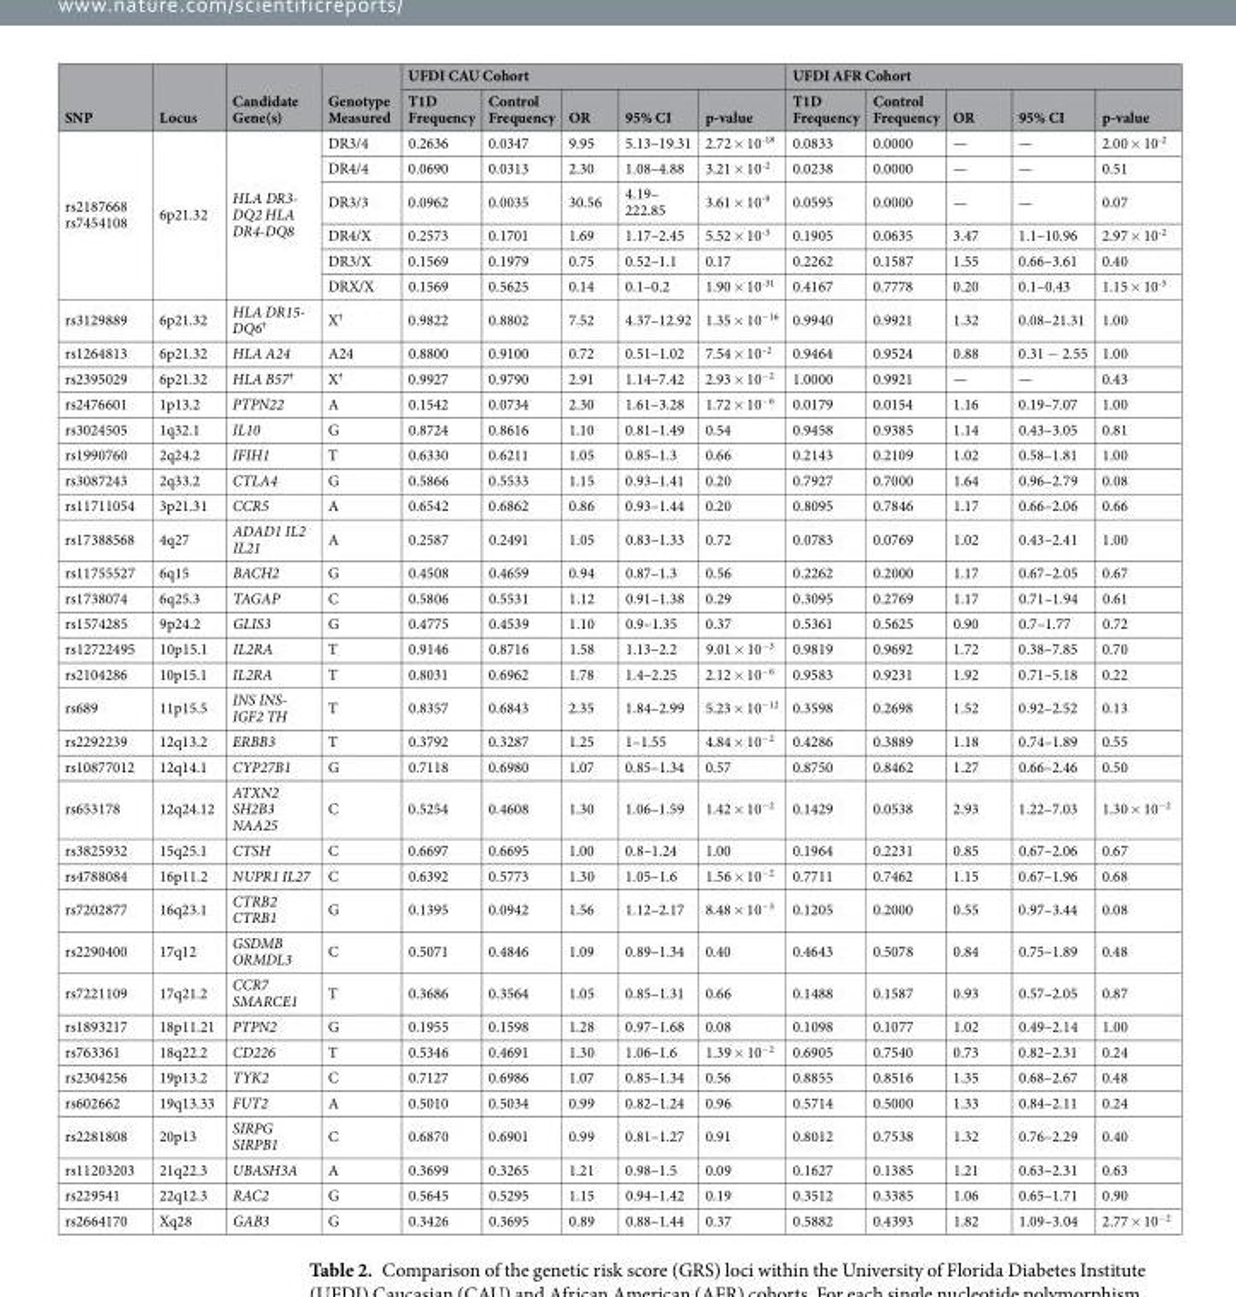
<table><thead><tr><td rowspan="2">SNP</td><td rowspan="2">Locus</td><td rowspan="2">Candidate Gene(s)</td><td rowspan="2">Genotype Measured</td><td colspan="5">UFDI CAU Cohort</td><td colspan="5">UFDI AFR Cohort</td></tr><tr><td>T1D Frequency</td><td>Control Frequency</td><td>OR</td><td>95% CI</td><td>p-value</td><td>T1D Frequency</td><td>Control Frequency</td><td>OR</td><td>95% CI</td><td>p-value</td></tr></thead><tbody><tr><td rowspan="6">rs2187668 rs7454108</td><td rowspan="6">6p21.32</td><td rowspan="6">HLA DR3- DQ2 HLA DR4-DQ8</td><td>DR3/4</td><td>0.2636</td><td>0.0347</td><td>9.95</td><td>5.13–19.31</td><td>2.72 × 10<sup>-18</sup></td><td>0.0833</td><td>0.0000</td><td>—</td><td>—</td><td>2.00 × 10<sup>-2</sup></td></tr><tr><td>DR4/4</td><td>0.0690</td><td>0.0313</td><td>2.30</td><td>1.08–4.88</td><td>3.21 × 10<sup>-2</sup></td><td>0.0238</td><td>0.0000</td><td>—</td><td>—</td><td>0.51</td></tr><tr><td>DR3/3</td><td>0.0962</td><td>0.0035</td><td>30.56</td><td>4.19– 222.85</td><td>3.61 × 10<sup>-9</sup></td><td>0.0595</td><td>0.0000</td><td>—</td><td>—</td><td>0.07</td></tr><tr><td>DR4/X</td><td>0.2573</td><td>0.1701</td><td>1.69</td><td>1.17–2.45</td><td>5.52 × 10<sup>-3</sup></td><td>0.1905</td><td>0.0635</td><td>3.47</td><td>1.1–10.96</td><td>2.97 × 10<sup>-2</sup></td></tr><tr><td>DR3/X</td><td>0.1569</td><td>0.1979</td><td>0.75</td><td>0.52–1.1</td><td>0.17</td><td>0.2262</td><td>0.1587</td><td>1.55</td><td>0.66–3.61</td><td>0.40</td></tr><tr><td>DRX/X</td><td>0.1569</td><td>0.5625</td><td>0.14</td><td>0.1–0.2</td><td>1.90 × 10<sup>-31</sup></td><td>0.4167</td><td>0.7778</td><td>0.20</td><td>0.1–0.43</td><td>1.15 × 10<sup>-5</sup></td></tr><tr><td>rs3129889</td><td>6p21.32</td><td>HLA DR15- DQ6<sup>†</sup></td><td>X<sup>†</sup></td><td>0.9822</td><td>0.8802</td><td>7.52</td><td>4.37–12.92</td><td>1.35 × 10<sup>−16</sup></td><td>0.9940</td><td>0.9921</td><td>1.32</td><td>0.08–21.31</td><td>1.00</td></tr><tr><td>rs1264813</td><td>6p21.32</td><td>HLA A24</td><td>A24</td><td>0.8800</td><td>0.9100</td><td>0.72</td><td>0.51–1.02</td><td>7.54 × 10<sup>–2</sup></td><td>0.9464</td><td>0.9524</td><td>0.88</td><td>0.31 − 2.55</td><td>1.00</td></tr><tr><td>rs2395029</td><td>6p21.32</td><td>HLA B57<sup>†</sup></td><td>X<sup>†</sup></td><td>0.9927</td><td>0.9790</td><td>2.91</td><td>1.14–7.42</td><td>2.93 × 10<sup>−2</sup></td><td>1.0000</td><td>0.9921</td><td>—</td><td>—</td><td>0.43</td></tr><tr><td>rs2476601</td><td>1p13.2</td><td>PTPN22</td><td>A</td><td>0.1542</td><td>0.0734</td><td>2.30</td><td>1.61–3.28</td><td>1.72 × 10<sup>−6</sup></td><td>0.0179</td><td>0.0154</td><td>1.16</td><td>0.19–7.07</td><td>1.00</td></tr><tr><td>rs3024505</td><td>1q32.1</td><td>IL10</td><td>G</td><td>0.8724</td><td>0.8616</td><td>1.10</td><td>0.81–1.49</td><td>0.54</td><td>0.9458</td><td>0.9385</td><td>1.14</td><td>0.43–3.05</td><td>0.81</td></tr><tr><td>rs1990760</td><td>2q24.2</td><td>IFIH1</td><td>T</td><td>0.6330</td><td>0.6211</td><td>1.05</td><td>0.85–1.3</td><td>0.66</td><td>0.2143</td><td>0.2109</td><td>1.02</td><td>0.58–1.81</td><td>1.00</td></tr><tr><td>rs3087243</td><td>2q33.2</td><td>CTLA4</td><td>G</td><td>0.5866</td><td>0.5533</td><td>1.15</td><td>0.93–1.41</td><td>0.20</td><td>0.7927</td><td>0.7000</td><td>1.64</td><td>0.96–2.79</td><td>0.08</td></tr><tr><td>rs11711054</td><td>3p21.31</td><td>CCR5</td><td>A</td><td>0.6542</td><td>0.6862</td><td>0.86</td><td>0.93–1.44</td><td>0.20</td><td>0.8095</td><td>0.7846</td><td>1.17</td><td>0.66–2.06</td><td>0.66</td></tr><tr><td>rs17388568</td><td>4q27</td><td>ADAD1 IL2 IL21</td><td>A</td><td>0.2587</td><td>0.2491</td><td>1.05</td><td>0.83–1.33</td><td>0.72</td><td>0.0783</td><td>0.0769</td><td>1.02</td><td>0.43–2.41</td><td>1.00</td></tr><tr><td>rs11755527</td><td>6q15</td><td>BACH2</td><td>G</td><td>0.4508</td><td>0.4659</td><td>0.94</td><td>0.87–1.3</td><td>0.56</td><td>0.2262</td><td>0.2000</td><td>1.17</td><td>0.67–2.05</td><td>0.67</td></tr><tr><td>rs1738074</td><td>6q25.3</td><td>TAGAP</td><td>C</td><td>0.5806</td><td>0.5531</td><td>1.12</td><td>0.91–1.38</td><td>0.29</td><td>0.3095</td><td>0.2769</td><td>1.17</td><td>0.71–1.94</td><td>0.61</td></tr><tr><td>rs1574285</td><td>9p24.2</td><td>GLIS3</td><td>G</td><td>0.4775</td><td>0.4539</td><td>1.10</td><td>0.9–1.35</td><td>0.37</td><td>0.5361</td><td>0.5625</td><td>0.90</td><td>0.7–1.77</td><td>0.72</td></tr><tr><td>rs12722495</td><td>10p15.1</td><td>IL2RA</td><td>T</td><td>0.9146</td><td>0.8716</td><td>1.58</td><td>1.13–2.2</td><td>9.01 × 10<sup>−3</sup></td><td>0.9819</td><td>0.9692</td><td>1.72</td><td>0.38–7.85</td><td>0.70</td></tr><tr><td>rs2104286</td><td>10p15.1</td><td>IL2RA</td><td>T</td><td>0.8031</td><td>0.6962</td><td>1.78</td><td>1.4–2.25</td><td>2.12 × 10<sup>−6</sup></td><td>0.9583</td><td>0.9231</td><td>1.92</td><td>0.71–5.18</td><td>0.22</td></tr><tr><td>rs689</td><td>11p15.5</td><td>INS INS- IGF2 TH</td><td>T</td><td>0.8357</td><td>0.6843</td><td>2.35</td><td>1.84–2.99</td><td>5.23 × 10<sup>−12</sup></td><td>0.3598</td><td>0.2698</td><td>1.52</td><td>0.92–2.52</td><td>0.13</td></tr><tr><td>rs2292239</td><td>12q13.2</td><td>ERBB3</td><td>T</td><td>0.3792</td><td>0.3287</td><td>1.25</td><td>1–1.55</td><td>4.84 × 10<sup>−2</sup></td><td>0.4286</td><td>0.3889</td><td>1.18</td><td>0.74–1.89</td><td>0.55</td></tr><tr><td>rs10877012</td><td>12q14.1</td><td>CYP27B1</td><td>G</td><td>0.7118</td><td>0.6980</td><td>1.07</td><td>0.85–1.34</td><td>0.57</td><td>0.8750</td><td>0.8462</td><td>1.27</td><td>0.66–2.46</td><td>0.50</td></tr><tr><td>rs653178</td><td>12q24.12</td><td>ATXN2 SH2B3 NAA25</td><td>C</td><td>0.5254</td><td>0.4608</td><td>1.30</td><td>1.06–1.59</td><td>1.42 × 10<sup>−2</sup></td><td>0.1429</td><td>0.0538</td><td>2.93</td><td>1.22–7.03</td><td>1.30 × 10<sup>−2</sup></td></tr><tr><td>rs3825932</td><td>15q25.1</td><td>CTSH</td><td>C</td><td>0.6697</td><td>0.6695</td><td>1.00</td><td>0.8–1.24</td><td>1.00</td><td>0.1964</td><td>0.2231</td><td>0.85</td><td>0.67–2.06</td><td>0.67</td></tr><tr><td>rs4788084</td><td>16p11.2</td><td>NUPR1 IL27</td><td>C</td><td>0.6392</td><td>0.5773</td><td>1.30</td><td>1.05–1.6</td><td>1.56 × 10<sup>−2</sup></td><td>0.7711</td><td>0.7462</td><td>1.15</td><td>0.67–1.96</td><td>0.68</td></tr><tr><td>rs7202877</td><td>16q23.1</td><td>CTRB2 CTRB1</td><td>G</td><td>0.1395</td><td>0.0942</td><td>1.56</td><td>1.12–2.17</td><td>8.48 × 10<sup>−3</sup></td><td>0.1205</td><td>0.2000</td><td>0.55</td><td>0.97–3.44</td><td>0.08</td></tr><tr><td>rs2290400</td><td>17q12</td><td>GSDMB ORMDL3</td><td>C</td><td>0.5071</td><td>0.4846</td><td>1.09</td><td>0.89–1.34</td><td>0.40</td><td>0.4643</td><td>0.5078</td><td>0.84</td><td>0.75–1.89</td><td>0.48</td></tr><tr><td>rs7221109</td><td>17q21.2</td><td>CCR7 SMARCE1</td><td>T</td><td>0.3686</td><td>0.3564</td><td>1.05</td><td>0.85–1.31</td><td>0.66</td><td>0.1488</td><td>0.1587</td><td>0.93</td><td>0.57–2.05</td><td>0.87</td></tr><tr><td>rs1893217</td><td>18p11.21</td><td>PTPN2</td><td>G</td><td>0.1955</td><td>0.1598</td><td>1.28</td><td>0.97–1.68</td><td>0.08</td><td>0.1098</td><td>0.1077</td><td>1.02</td><td>0.49–2.14</td><td>1.00</td></tr><tr><td>rs763361</td><td>18q22.2</td><td>CD226</td><td>T</td><td>0.5346</td><td>0.4691</td><td>1.30</td><td>1.06–1.6</td><td>1.39 × 10<sup>−2</sup></td><td>0.6905</td><td>0.7540</td><td>0.73</td><td>0.82–2.31</td><td>0.24</td></tr><tr><td>rs2304256</td><td>19p13.2</td><td>TYK2</td><td>C</td><td>0.7127</td><td>0.6986</td><td>1.07</td><td>0.85–1.34</td><td>0.56</td><td>0.8855</td><td>0.8516</td><td>1.35</td><td>0.68–2.67</td><td>0.48</td></tr><tr><td>rs602662</td><td>19q13.33</td><td>FUT2</td><td>A</td><td>0.5010</td><td>0.5034</td><td>0.99</td><td>0.82–1.24</td><td>0.96</td><td>0.5714</td><td>0.5000</td><td>1.33</td><td>0.84–2.11</td><td>0.24</td></tr><tr><td>rs2281808</td><td>20p13</td><td>SIRPG SIRPB1</td><td>C</td><td>0.6870</td><td>0.6901</td><td>0.99</td><td>0.81–1.27</td><td>0.91</td><td>0.8012</td><td>0.7538</td><td>1.32</td><td>0.76–2.29</td><td>0.40</td></tr><tr><td>rs11203203</td><td>21q22.3</td><td>UBASH3A</td><td>A</td><td>0.3699</td><td>0.3265</td><td>1.21</td><td>0.98–1.5</td><td>0.09</td><td>0.1627</td><td>0.1385</td><td>1.21</td><td>0.63–2.31</td><td>0.63</td></tr><tr><td>rs229541</td><td>22q12.3</td><td>RAC2</td><td>G</td><td>0.5645</td><td>0.5295</td><td>1.15</td><td>0.94–1.42</td><td>0.19</td><td>0.3512</td><td>0.3385</td><td>1.06</td><td>0.65–1.71</td><td>0.90</td></tr><tr><td>rs2664170</td><td>Xq28</td><td>GAB3</td><td>G</td><td>0.3426</td><td>0.3695</td><td>0.89</td><td>0.88–1.44</td><td>0.37</td><td>0.5882</td><td>0.4393</td><td>1.82</td><td>1.09–3.04</td><td>2.77 × 10<sup>−2</sup></td></tr></tbody></table>